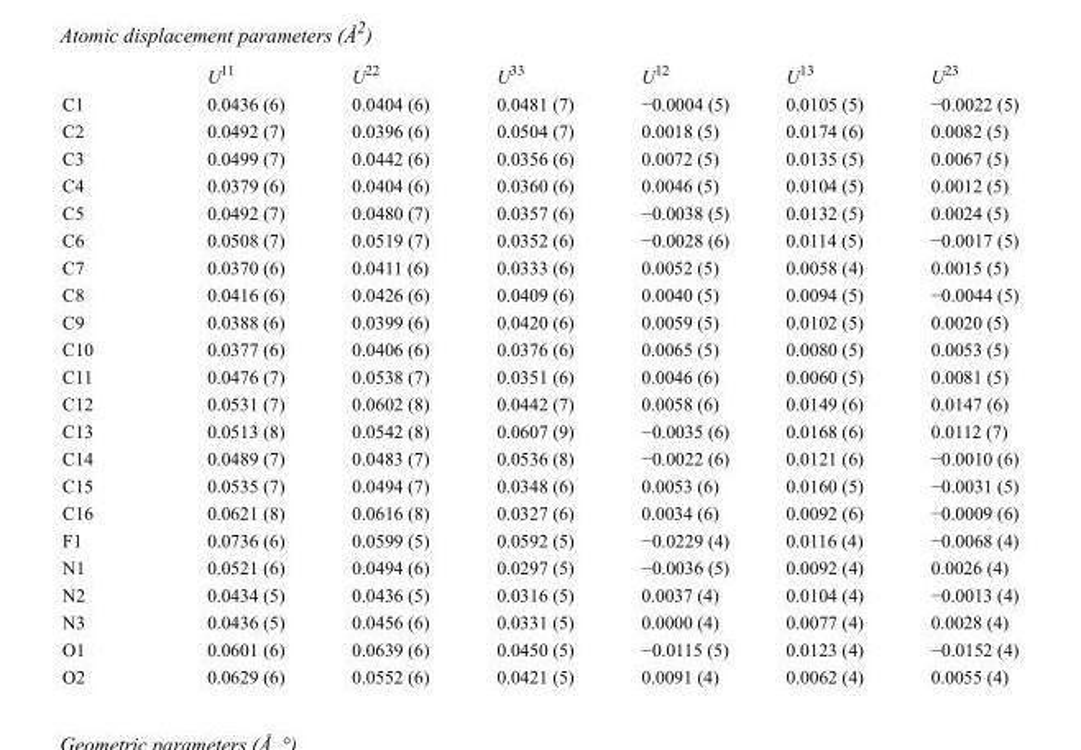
<table><thead><tr><td></td><td>U<sup>11</sup></td><td>U<sup>22</sup></td><td>U<sup>33</sup></td><td>U<sup>12</sup></td><td>U<sup>13</sup></td><td>U<sup>23</sup></td></tr></thead><tbody><tr><td>C1</td><td>0.0436 (6)</td><td>0.0404 (6)</td><td>0.0481 (7)</td><td>−0.0004 (5)</td><td>0.0105 (5)</td><td>−0.0022 (5)</td></tr><tr><td>C2</td><td>0.0492 (7)</td><td>0.0396 (6)</td><td>0.0504 (7)</td><td>0.0018 (5)</td><td>0.0174 (6)</td><td>0.0082 (5)</td></tr><tr><td>C3</td><td>0.0499 (7)</td><td>0.0442 (6)</td><td>0.0356 (6)</td><td>0.0072 (5)</td><td>0.0135 (5)</td><td>0.0067 (5)</td></tr><tr><td>C4</td><td>0.0379 (6)</td><td>0.0404 (6)</td><td>0.0360 (6)</td><td>0.0046 (5)</td><td>0.0104 (5)</td><td>0.0012 (5)</td></tr><tr><td>C5</td><td>0.0492 (7)</td><td>0.0480 (7)</td><td>0.0357 (6)</td><td>−0.0038 (5)</td><td>0.0132 (5)</td><td>0.0024 (5)</td></tr><tr><td>C6</td><td>0.0508 (7)</td><td>0.0519 (7)</td><td>0.0352 (6)</td><td>−0.0028 (6)</td><td>0.0114 (5)</td><td>−0.0017 (5)</td></tr><tr><td>C7</td><td>0.0370 (6)</td><td>0.0411 (6)</td><td>0.0333 (6)</td><td>0.0052 (5)</td><td>0.0058 (4)</td><td>0.0015 (5)</td></tr><tr><td>C8</td><td>0.0416 (6)</td><td>0.0426 (6)</td><td>0.0409 (6)</td><td>0.0040 (5)</td><td>0.0094 (5)</td><td>−0.0044 (5)</td></tr><tr><td>C9</td><td>0.0388 (6)</td><td>0.0399 (6)</td><td>0.0420 (6)</td><td>0.0059 (5)</td><td>0.0102 (5)</td><td>0.0020 (5)</td></tr><tr><td>C10</td><td>0.0377 (6)</td><td>0.0406 (6)</td><td>0.0376 (6)</td><td>0.0065 (5)</td><td>0.0080 (5)</td><td>0.0053 (5)</td></tr><tr><td>C11</td><td>0.0476 (7)</td><td>0.0538 (7)</td><td>0.0351 (6)</td><td>0.0046 (6)</td><td>0.0060 (5)</td><td>0.0081 (5)</td></tr><tr><td>C12</td><td>0.0531 (7)</td><td>0.0602 (8)</td><td>0.0442 (7)</td><td>0.0058 (6)</td><td>0.0149 (6)</td><td>0.0147 (6)</td></tr><tr><td>C13</td><td>0.0513 (8)</td><td>0.0542 (8)</td><td>0.0607 (9)</td><td>−0.0035 (6)</td><td>0.0168 (6)</td><td>0.0112 (7)</td></tr><tr><td>C14</td><td>0.0489 (7)</td><td>0.0483 (7)</td><td>0.0536 (8)</td><td>−0.0022 (6)</td><td>0.0121 (6)</td><td>−0.0010 (6)</td></tr><tr><td>C15</td><td>0.0535 (7)</td><td>0.0494 (7)</td><td>0.0348 (6)</td><td>0.0053 (6)</td><td>0.0160 (5)</td><td>−0.0031 (5)</td></tr><tr><td>C16</td><td>0.0621 (8)</td><td>0.0616 (8)</td><td>0.0327 (6)</td><td>0.0034 (6)</td><td>0.0092 (6)</td><td>−0.0009 (6)</td></tr><tr><td>F1</td><td>0.0736 (6)</td><td>0.0599 (5)</td><td>0.0592 (5)</td><td>−0.0229 (4)</td><td>0.0116 (4)</td><td>−0.0068 (4)</td></tr><tr><td>N1</td><td>0.0521 (6)</td><td>0.0494 (6)</td><td>0.0297 (5)</td><td>−0.0036 (5)</td><td>0.0092 (4)</td><td>0.0026 (4)</td></tr><tr><td>N2</td><td>0.0434 (5)</td><td>0.0436 (5)</td><td>0.0316 (5)</td><td>0.0037 (4)</td><td>0.0104 (4)</td><td>−0.0013 (4)</td></tr><tr><td>N3</td><td>0.0436 (5)</td><td>0.0456 (6)</td><td>0.0331 (5)</td><td>0.0000 (4)</td><td>0.0077 (4)</td><td>0.0028 (4)</td></tr><tr><td>O1</td><td>0.0601 (6)</td><td>0.0639 (6)</td><td>0.0450 (5)</td><td>−0.0115 (5)</td><td>0.0123 (4)</td><td>−0.0152 (4)</td></tr><tr><td>O2</td><td>0.0629 (6)</td><td>0.0552 (6)</td><td>0.0421 (5)</td><td>0.0091 (4)</td><td>0.0062 (4)</td><td>0.0055 (4)</td></tr></tbody></table>